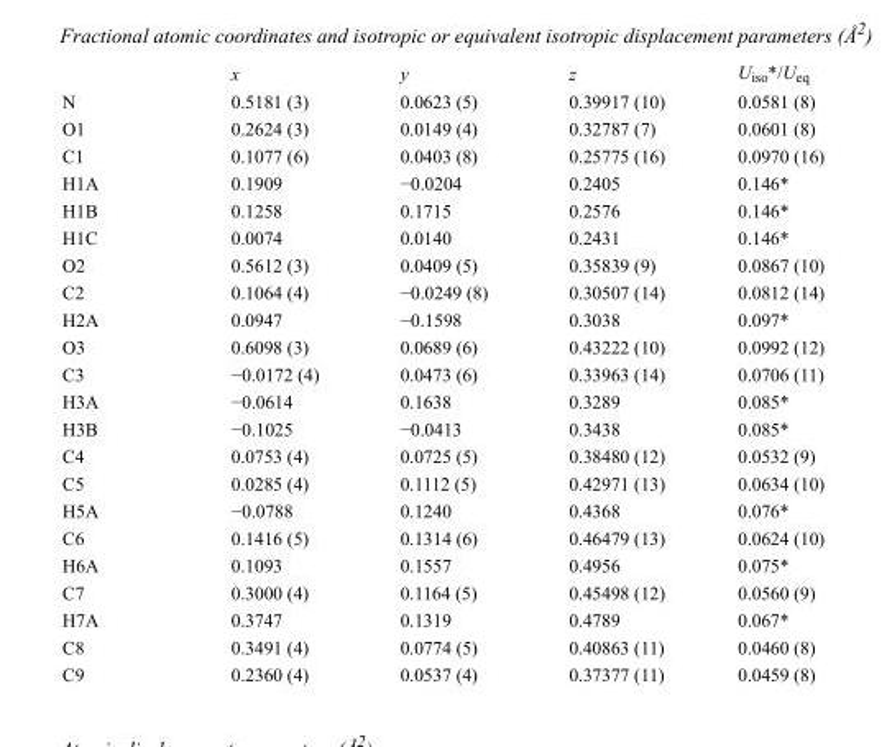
<table><thead><tr><td></td><td>x</td><td>y</td><td>z</td><td>U<sub>iso</sub>*/U<sub>eq</sub></td></tr></thead><tbody><tr><td>N</td><td>0.5181 (3)</td><td>0.0623 (5)</td><td>0.39917 (10)</td><td>0.0581 (8)</td></tr><tr><td>O1</td><td>0.2624 (3)</td><td>0.0149 (4)</td><td>0.32787 (7)</td><td>0.0601 (8)</td></tr><tr><td>C1</td><td>0.1077 (6)</td><td>0.0403 (8)</td><td>0.25775 (16)</td><td>0.0970 (16)</td></tr><tr><td>H1A</td><td>0.1909</td><td>−0.0204</td><td>0.2405</td><td>0.146*</td></tr><tr><td>H1B</td><td>0.1258</td><td>0.1715</td><td>0.2576</td><td>0.146*</td></tr><tr><td>H1C</td><td>0.0074</td><td>0.0140</td><td>0.2431</td><td>0.146*</td></tr><tr><td>O2</td><td>0.5612 (3)</td><td>0.0409 (5)</td><td>0.35839 (9)</td><td>0.0867 (10)</td></tr><tr><td>C2</td><td>0.1064 (4)</td><td>−0.0249 (8)</td><td>0.30507 (14)</td><td>0.0812 (14)</td></tr><tr><td>H2A</td><td>0.0947</td><td>−0.1598</td><td>0.3038</td><td>0.097*</td></tr><tr><td>O3</td><td>0.6098 (3)</td><td>0.0689 (6)</td><td>0.43222 (10)</td><td>0.0992 (12)</td></tr><tr><td>C3</td><td>−0.0172 (4)</td><td>0.0473 (6)</td><td>0.33963 (14)</td><td>0.0706 (11)</td></tr><tr><td>H3A</td><td>−0.0614</td><td>0.1638</td><td>0.3289</td><td>0.085*</td></tr><tr><td>H3B</td><td>−0.1025</td><td>−0.0413</td><td>0.3438</td><td>0.085*</td></tr><tr><td>C4</td><td>0.0753 (4)</td><td>0.0725 (5)</td><td>0.38480 (12)</td><td>0.0532 (9)</td></tr><tr><td>C5</td><td>0.0285 (4)</td><td>0.1112 (5)</td><td>0.42971 (13)</td><td>0.0634 (10)</td></tr><tr><td>H5A</td><td>−0.0788</td><td>0.1240</td><td>0.4368</td><td>0.076*</td></tr><tr><td>C6</td><td>0.1416 (5)</td><td>0.1314 (6)</td><td>0.46479 (13)</td><td>0.0624 (10)</td></tr><tr><td>H6A</td><td>0.1093</td><td>0.1557</td><td>0.4956</td><td>0.075*</td></tr><tr><td>C7</td><td>0.3000 (4)</td><td>0.1164 (5)</td><td>0.45498 (12)</td><td>0.0560 (9)</td></tr><tr><td>H7A</td><td>0.3747</td><td>0.1319</td><td>0.4789</td><td>0.067*</td></tr><tr><td>C8</td><td>0.3491 (4)</td><td>0.0774 (5)</td><td>0.40863 (11)</td><td>0.0460 (8)</td></tr><tr><td>C9</td><td>0.2360 (4)</td><td>0.0537 (4)</td><td>0.37377 (11)</td><td>0.0459 (8)</td></tr></tbody></table>